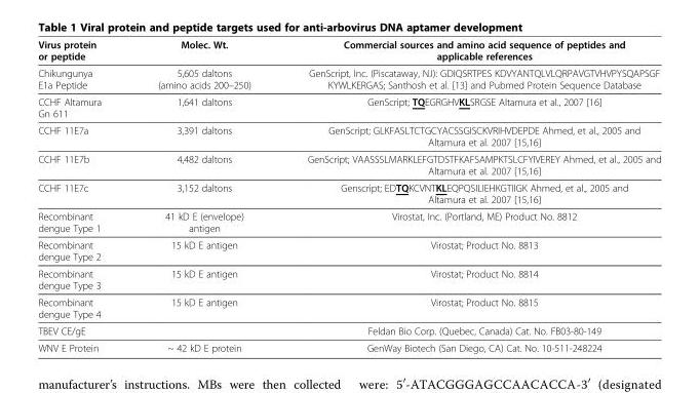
<table><thead><tr><td>Virus protein or peptide</td><td>Molec. Wt.</td><td>Commercial sources and amino acid sequence of peptides and applicable references</td></tr></thead><tbody><tr><td>Chikungunya E1a Peptide</td><td>5,605 daltons (amino acids 200–250)</td><td>GenScript, Inc. (Piscataway, NJ): GDIQSRTPES KDVYANTQLVLQRPAVGTVHVPYSQAPSGF KYWLKERGAS; Santhosh et al. [13] and Pubmed Protein Sequence Database</td></tr><tr><td>CCHF Altamura Gn 611</td><td>1,641 daltons</td><td>GenScript; TQEGRGHVKLSRGSE Altamura et al., 2007 [16]</td></tr><tr><td>CCHF 11E7a</td><td>3,391 daltons</td><td>GenScript; GLKFASLTCTGCYACSSGISCKVRIHVDEPDE Ahmed, et al., 2005 and Altamura et al. 2007 [15,16]</td></tr><tr><td>CCHF 11E7b</td><td>4,482 daltons</td><td>GenScript; VAASSSLMARKLEFGTDSTFKAFSAMPKTSLCFYIVEREY Ahmed, et al., 2005 and Altamura et al. 2007 [15,16]</td></tr><tr><td>CCHF 11E7c</td><td>3,152 daltons</td><td>Genscript; EDTQKCVNTKLEQPQSILIEHKGTIIGK Ahmed, et al., 2005 and Altamura et al. 2007 [15,16]</td></tr><tr><td>Recombinant dengue Type 1</td><td>41 kD E (envelope) antigen</td><td>Virostat, Inc. (Portland, ME) Product No. 8812</td></tr><tr><td>Recombinant dengue Type 2</td><td>15 kD E antigen</td><td>Virostat; Product No. 8813</td></tr><tr><td>Recombinant dengue Type 3</td><td>15 kD E antigen</td><td>Virostat; Product No. 8814</td></tr><tr><td>Recombinant dengue Type 4</td><td>15 kD E antigen</td><td>Virostat; Product No. 8815</td></tr><tr><td>TBEV CE/gE</td><td></td><td>Feldan Bio Corp. (Quebec, Canada) Cat. No. FB03-80-149</td></tr><tr><td>WNV E Protein</td><td>~ 42 kD E protein</td><td>GenWay Biotech (San Diego, CA) Cat. No. 10-511-248224</td></tr></tbody></table>